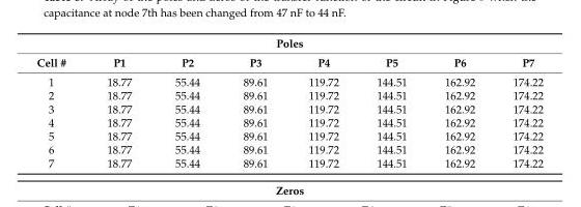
<table><thead><tr><td colspan="8">Poles</td></tr><tr><td>Cell #</td><td>P1</td><td>P2</td><td>P3</td><td>P4</td><td>P5</td><td>P6</td><td>P7</td></tr></thead><tbody><tr><td>1</td><td>18.77</td><td>55.44</td><td>89.61</td><td>119.72</td><td>144.51</td><td>162.92</td><td>174.22</td></tr><tr><td>2</td><td>18.77</td><td>55.44</td><td>89.61</td><td>119.72</td><td>144.51</td><td>162.92</td><td>174.22</td></tr><tr><td>3</td><td>18.77</td><td>55.44</td><td>89.61</td><td>119.72</td><td>144.51</td><td>162.92</td><td>174.22</td></tr><tr><td>4</td><td>18.77</td><td>55.44</td><td>89.61</td><td>119.72</td><td>144.51</td><td>162.92</td><td>174.22</td></tr><tr><td>5</td><td>18.77</td><td>55.44</td><td>89.61</td><td>119.72</td><td>144.51</td><td>162.92</td><td>174.22</td></tr><tr><td>6</td><td>18.77</td><td>55.44</td><td>89.61</td><td>119.72</td><td>144.51</td><td>162.92</td><td>174.22</td></tr><tr><td>7</td><td>18.77</td><td>55.44</td><td>89.61</td><td>119.72</td><td>144.51</td><td>162.92</td><td>174.22</td></tr></tbody></table>